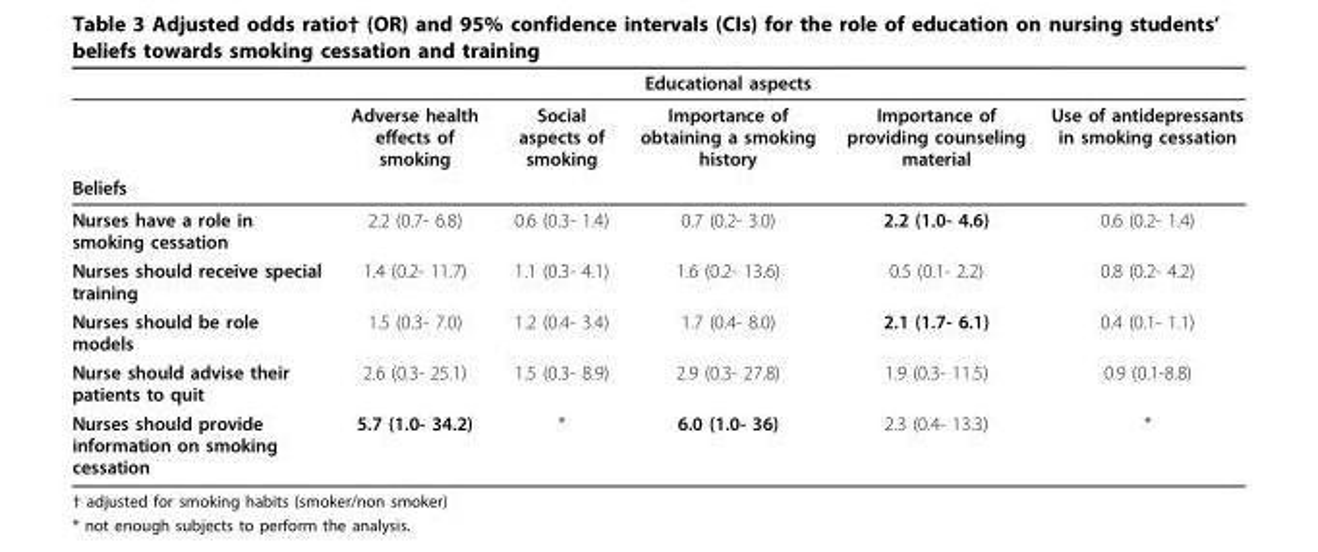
<table><thead><tr><td></td><td></td><td></td><td>Educational aspects</td><td></td><td></td></tr></thead><tbody><tr><td></td><td>Adverse health effects of smoking</td><td>Social aspects of smoking</td><td>Importance of obtaining a smoking history</td><td>Importance of providing counseling material</td><td>Use of antidepressants in smoking cessation</td></tr><tr><td colspan="6">Beliefs</td></tr><tr><td>Nurses have a role in smoking cessation</td><td>2.2 (0.7- 6.8)</td><td>0.6 (0.3- 1.4)</td><td>0.7 (0.2- 3.0)</td><td>2.2 (1.0- 4.6)</td><td>0.6 (0.2- 1.4)</td></tr><tr><td>Nurses should receive special training</td><td>1.4 (0.2- 11.7)</td><td>1.1 (0.3- 4.1)</td><td>1.6 (0.2- 13.6)</td><td>0.5 (0.1- 2.2)</td><td>0.8 (0.2- 4.2)</td></tr><tr><td>Nurses should be role models</td><td>1.5 (0.3- 7.0)</td><td>1.2 (0.4- 3.4)</td><td>1.7 (0.4- 8.0)</td><td>2.1 (1.7- 6.1)</td><td>0.4 (0.1- 1.1)</td></tr><tr><td>Nurse should advise their patients to quit</td><td>2.6 (0.3- 25.1)</td><td>1.5 (0.3- 8.9)</td><td>2.9 (0.3- 27.8)</td><td>1.9 (0.3- 11.5)</td><td>0.9 (0.1-8.8)</td></tr><tr><td>Nurses should provide information on smoking cessation</td><td>5.7 (1.0- 34.2)</td><td>*</td><td>6.0 (1.0- 36)</td><td>2.3 (0.4- 13.3)</td><td>*</td></tr></tbody></table>